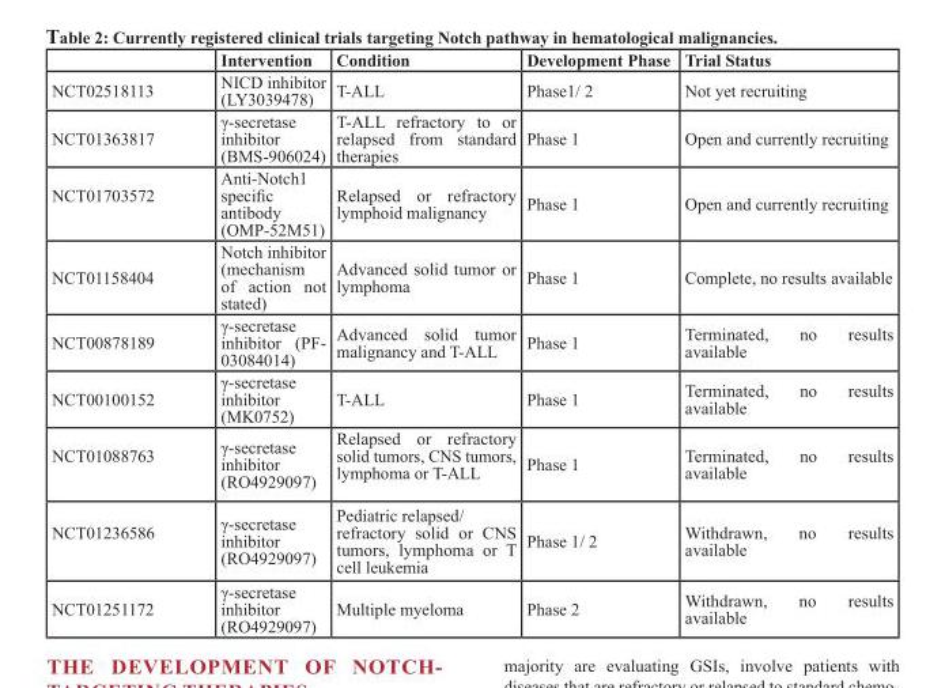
<table><thead><tr><td></td><td>Intervention</td><td>Condition</td><td>Development Phase</td><td>Trial Status</td></tr></thead><tbody><tr><td>NCT02518113</td><td>NICD inhibitor (LY3039478)</td><td>T-ALL</td><td>Phase1/ 2</td><td>Not yet recruiting</td></tr><tr><td>NCT01363817</td><td>γ-secretase inhibitor (BMS-906024)</td><td>T-ALL refractory to or relapsed from standard therapies</td><td>Phase 1</td><td>Open and currently recruiting</td></tr><tr><td>NCT01703572</td><td>Anti-Notch1 specific antibody (OMP-52M51)</td><td>Relapsed or refractory lymphoid malignancy</td><td>Phase 1</td><td>Open and currently recruiting</td></tr><tr><td>NCT01158404</td><td>Notch inhibitor (mechanism of action not stated)</td><td>Advanced solid tumor or lymphoma</td><td>Phase 1</td><td>Complete, no results available</td></tr><tr><td>NCT00878189</td><td>γ-secretase inhibitor (PF- 03084014)</td><td>Advanced solid tumor malignancy and T-ALL</td><td>Phase 1</td><td>Terminated, no results available</td></tr><tr><td>NCT00100152</td><td>γ-secretase inhibitor (MK0752)</td><td>T-ALL</td><td>Phase 1</td><td>Terminated, no results available</td></tr><tr><td>NCT01088763</td><td>γ-secretase inhibitor (RO4929097)</td><td>Relapsed or refractory solid tumors, CNS tumors, lymphoma or T-ALL</td><td>Phase 1</td><td>Terminated, no results available</td></tr><tr><td>NCT01236586</td><td>γ-secretase inhibitor (RO4929097)</td><td>Pediatric relapsed/ refractory solid or CNS tumors, lymphoma or T cell leukemia</td><td>Phase 1/ 2</td><td>Withdrawn, no results available</td></tr><tr><td>NCT01251172</td><td>γ-secretase inhibitor (RO4929097)</td><td>Multiple myeloma</td><td>Phase 2</td><td>Withdrawn, no results available</td></tr></tbody></table>